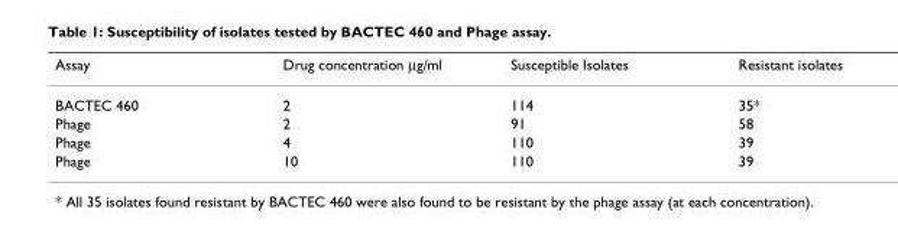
<table><thead><tr><td>Assay</td><td>Drug concentration μg/ml</td><td>Susceptible Isolates</td><td>Resistant isolates</td></tr></thead><tbody><tr><td>BACTEC 460</td><td>2</td><td>114</td><td>35*</td></tr><tr><td>Phage</td><td>2</td><td>91</td><td>58</td></tr><tr><td>Phage</td><td>4</td><td>110</td><td>39</td></tr><tr><td>Phage</td><td>10</td><td>110</td><td>39</td></tr></tbody></table>